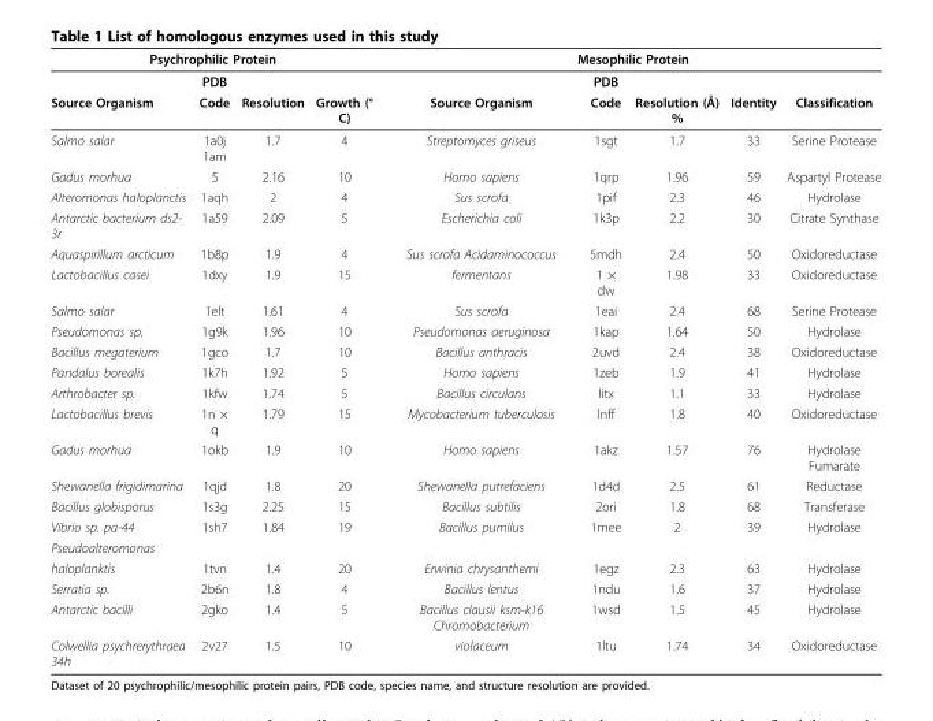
<table><thead><tr><td colspan="4">Psychrophilic Protein</td><td colspan="5">Mesophilic Protein</td></tr><tr><td></td><td>PDB</td><td></td><td></td><td></td><td>PDB</td><td></td><td></td><td></td></tr></thead><tbody><tr><td>Source Organism</td><td>Code</td><td>Resolution</td><td>Growth (° C)</td><td>Source Organism</td><td>Code</td><td>Resolution (Å) %</td><td>Identity</td><td>Classification</td></tr><tr><td>Salmo salar</td><td>1a0j 1am</td><td>1.7</td><td>4</td><td>Streptomyces griseus</td><td>1sgt</td><td>1.7</td><td>33</td><td>Serine Protease</td></tr><tr><td>Gadus morhua</td><td>5</td><td>2.16</td><td>10</td><td>Homo sapiens</td><td>1qrp</td><td>1.96</td><td>59</td><td>Aspartyl Protease</td></tr><tr><td>Alteromonas haloplanctis</td><td>1aqh</td><td>2</td><td>4</td><td>Sus scrofa</td><td>1pif</td><td>2.3</td><td>46</td><td>Hydrolase</td></tr><tr><td>Antarctic bacterium ds2- 3r</td><td>1a59</td><td>2.09</td><td>5</td><td>Escherichia coli</td><td>1k3p</td><td>2.2</td><td>30</td><td>Citrate Synthase</td></tr><tr><td>Aquaspirillum arcticum</td><td>1b8p</td><td>1.9</td><td>4</td><td>Sus scrofa Acidaminococcus</td><td>5mdh</td><td>2.4</td><td>50</td><td>Oxidoreductase</td></tr><tr><td>Lactobacillus casei</td><td>1dxy</td><td>1.9</td><td>15</td><td>fermentans</td><td>1 × dw</td><td>1.98</td><td>33</td><td>Oxidoreductase</td></tr><tr><td>Salmo salar</td><td>1elt</td><td>1.61</td><td>4</td><td>Sus scrofa</td><td>1eai</td><td>2.4</td><td>68</td><td>Serine Protease</td></tr><tr><td>Pseudomonas sp.</td><td>1g9k</td><td>1.96</td><td>10</td><td>Pseudomonas aeruginosa</td><td>1kap</td><td>1.64</td><td>50</td><td>Hydrolase</td></tr><tr><td>Bacillus megaterium</td><td>1gco</td><td>1.7</td><td>10</td><td>Bacillus anthracis</td><td>2uvd</td><td>2.4</td><td>38</td><td>Oxidoreductase</td></tr><tr><td>Pandalus borealis</td><td>1k7h</td><td>1.92</td><td>5</td><td>Homo sapiens</td><td>1zeb</td><td>1.9</td><td>41</td><td>Hydrolase</td></tr><tr><td>Arthrobacter sp.</td><td>1kfw</td><td>1.74</td><td>5</td><td>Bacillus circulans</td><td>litx</td><td>1.1</td><td>33</td><td>Hydrolase</td></tr><tr><td>Lactobacillus brevis</td><td>1n × q</td><td>1.79</td><td>15</td><td>Mycobacterium tuberculosis</td><td>lnff</td><td>1.8</td><td>40</td><td>Oxidoreductase</td></tr><tr><td>Gadus morhua</td><td>1okb</td><td>1.9</td><td>10</td><td>Homo sapiens</td><td>1akz</td><td>1.57</td><td>76</td><td>Hydrolase Fumarate</td></tr><tr><td>Shewanella frigidimarina</td><td>1qjd</td><td>1.8</td><td>20</td><td>Shewanella putrefaciens</td><td>1d4d</td><td>2.5</td><td>61</td><td>Reductase</td></tr><tr><td>Bacillus globisporus</td><td>1s3g</td><td>2.25</td><td>15</td><td>Bacillus subtilis</td><td>2ori</td><td>1.8</td><td>68</td><td>Transferase</td></tr><tr><td>Vibrio sp. pa-44</td><td>1sh7</td><td>1.84</td><td>19</td><td>Bacillus pumilus</td><td>1mee</td><td>2</td><td>39</td><td>Hydrolase</td></tr><tr><td colspan="9">Pseudoalteromonas</td></tr><tr><td>haloplanktis</td><td>1tvn</td><td>1.4</td><td>20</td><td>Erwinia chrysanthemi</td><td>1egz</td><td>2.3</td><td>63</td><td>Hydrolase</td></tr><tr><td>Serratia sp.</td><td>2b6n</td><td>1.8</td><td>4</td><td>Bacillus lentus</td><td>1ndu</td><td>1.6</td><td>37</td><td>Hydrolase</td></tr><tr><td>Antarctic bacilli</td><td>2gko</td><td>1.4</td><td>5</td><td>Bacillus clausii ksm-k16 Chromobacterium</td><td>1wsd</td><td>1.5</td><td>45</td><td>Hydrolase</td></tr><tr><td>Colwellia psychrerythraea 34h</td><td>2v27</td><td>1.5</td><td>10</td><td>violaceum</td><td>1ltu</td><td>1.74</td><td>34</td><td>Oxidoreductase</td></tr></tbody></table>